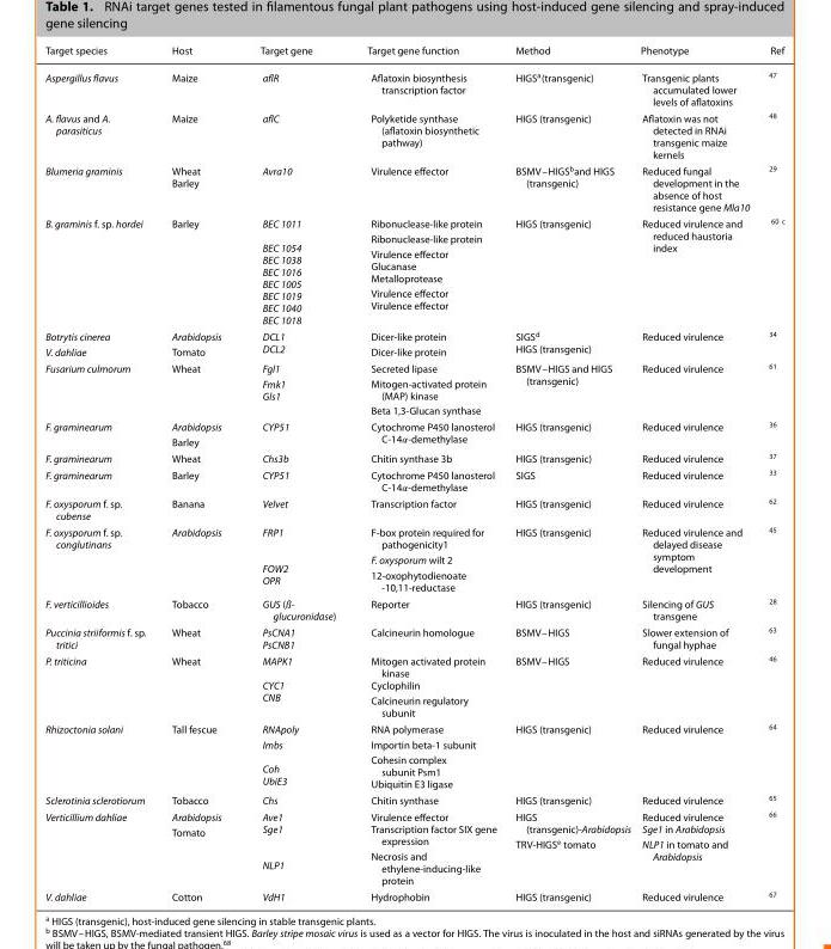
<table><thead><tr><td>Target species</td><td>Host</td><td>Target gene</td><td>Target gene function</td><td>Method</td><td>Phenotype</td><td>Ref</td></tr></thead><tbody><tr><td>Aspergillus flavus</td><td>Maize</td><td>aflR</td><td>Aflatoxin biosynthesis transcription factor</td><td>HIGS<sup>a</sup>(transgenic)</td><td>Transgenic plants accumulated lower levels of aflatoxins</td><td>47</td></tr><tr><td>A. flavus and A. parasiticus</td><td>Maize</td><td>aflC</td><td>Polyketide synthase (aflatoxin biosynthetic pathway)</td><td>HIGS (transgenic)</td><td>Aflatoxin was not detected in RNAi transgenic maize kernels</td><td>48</td></tr><tr><td>Blumeria graminis</td><td>Wheat Barley</td><td>Avra10</td><td>Virulence effector</td><td>BSMV–HIGS<sup>b</sup>and HIGS (transgenic)</td><td>Reduced fungal development in the absence of host resistance gene Mla10</td><td>29</td></tr><tr><td>B. graminis f. sp. hordei</td><td>Barley</td><td>BEC 1011 BEC 1054 BEC 1038 BEC 1016 BEC 1005 BEC 1019 BEC 1040 BEC 1018</td><td>Ribonuclease-like protein Ribonuclease-like protein Virulence effector Glucanase Metalloprotease Virulence effector Virulence effector</td><td>HIGS (transgenic)</td><td>Reduced virulence and reduced haustoria index</td><td>60 <sup>c</sup></td></tr><tr><td>Botrytis cinerea V. dahliae</td><td>Arabidopsis Tomato</td><td>DCL1 DCL2</td><td>Dicer-like protein Dicer-like protein</td><td>SIGSd HIGS (transgenic)</td><td>Reduced virulence</td><td>34</td></tr><tr><td>Fusarium culmorum</td><td>Wheat</td><td>Fgl1 Fmk1 Gls1</td><td>Secreted lipase Mitogen-activated protein (MAP) kinase Beta 1,3-Glucan synthase</td><td>BSMV–HIGS and HIGS (transgenic)</td><td>Reduced virulence</td><td>61</td></tr><tr><td>F. graminearum</td><td>Arabidopsis Barley</td><td>CYP51</td><td>Cytochrome P450 lanosterol C-14𝛼-demethylase</td><td>HIGS (transgenic)</td><td>Reduced virulence</td><td>36</td></tr><tr><td>F. graminearum</td><td>Wheat</td><td>Chs3b</td><td>Chitin synthase 3b</td><td>HIGS (transgenic)</td><td>Reduced virulence</td><td>37</td></tr><tr><td>F. graminearum</td><td>Barley</td><td>CYP51</td><td>Cytochrome P450 lanosterol C-14𝛼-demethylase</td><td>SIGS</td><td>Reduced virulence</td><td>33</td></tr><tr><td>F. oxysporum f. sp. cubense</td><td>Banana</td><td>Velvet</td><td>Transcription factor</td><td>HIGS (transgenic)</td><td>Reduced virulence</td><td>62</td></tr><tr><td>F. oxysporum f. sp. conglutinans</td><td>Arabidopsis</td><td>FRP1 FOW2 OPR</td><td>F-box protein required for pathogenicity1 F. oxysporum wilt 2 12-oxophytodienoate -10,11-reductase</td><td>HIGS (transgenic)</td><td>Reduced virulence and delayed disease symptom development</td><td>45</td></tr><tr><td>F. verticillioides</td><td>Tobacco</td><td>GUS (ß- glucuronidase)</td><td>Reporter</td><td>HIGS (transgenic)</td><td>Silencing of GUS transgene</td><td>28</td></tr><tr><td>Puccinia striiformis f. sp. tritici</td><td>Wheat</td><td>PsCNA1 PsCNB1</td><td>Calcineurin homologue</td><td>BSMV–HIGS</td><td>Slower extension of fungal hyphae</td><td>63</td></tr><tr><td>P. triticina</td><td>Wheat</td><td>MAPK1 CYC1 CNB</td><td>Mitogen activated protein kinase Cyclophilin Calcineurin regulatory subunit</td><td>BSMV–HIGS</td><td>Reduced virulence</td><td>46</td></tr><tr><td>Rhizoctonia solani</td><td>Tall fescue</td><td>RNApoly Imbs Coh UbiE3</td><td>RNA polymerase Importin beta-1 subunit Cohesin complex subunit Psm1 Ubiquitin E3 ligase</td><td>HIGS (transgenic)</td><td>Reduced virulence</td><td>64</td></tr><tr><td>Sclerotinia sclerotiorum</td><td>Tobacco</td><td>Chs</td><td>Chitin synthase</td><td>HIGS (transgenic)</td><td>Reduced virulence</td><td>65</td></tr><tr><td>Verticillium dahliae</td><td>Arabidopsis Tomato</td><td>Ave1 Sge1 NLP1</td><td>Virulence effector Transcription factor SIX gene expression Necrosis and ethylene-inducing-like protein</td><td>HIGS (transgenic)-Arabidopsis TRV-HIGSe tomato</td><td>Reduced virulence Sge1 in Arabidopsis NLP1 in tomato and Arabidopsis</td><td>66</td></tr><tr><td>V. dahliae</td><td>Cotton</td><td>VdH1</td><td>Hydrophobin</td><td>HIGS (transgenic)</td><td>Reduced virulence</td><td>67</td></tr></tbody></table>